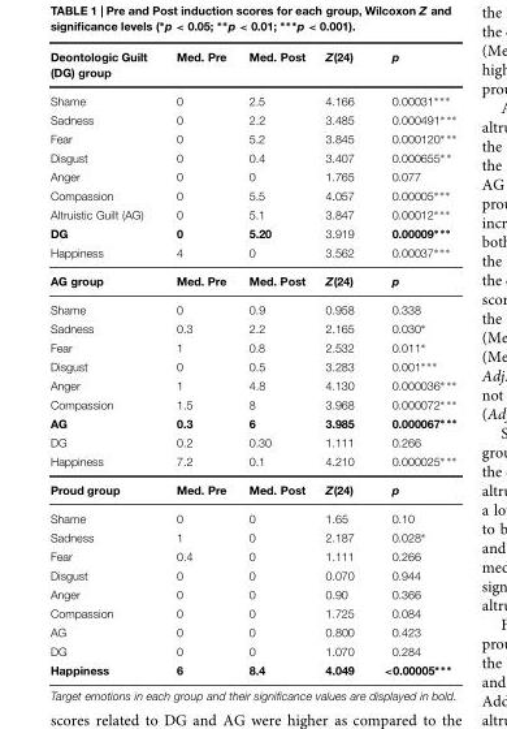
<table><thead><tr><td>Deontologic Guilt (DG) group</td><td>Med. Pre</td><td>Med. Post</td><td>Z(24)</td><td>p</td></tr></thead><tbody><tr><td>Shame</td><td>0</td><td>2.5</td><td>4.166</td><td>0.00031∗ ∗∗</td></tr><tr><td>Sadness</td><td>0</td><td>2.2</td><td>3.485</td><td>0.000491∗ ∗∗</td></tr><tr><td>Fear</td><td>0</td><td>5.2</td><td>3.845</td><td>0.000120∗ ∗∗</td></tr><tr><td>Disgust</td><td>0</td><td>0.4</td><td>3.407</td><td>0.000655∗ ∗</td></tr><tr><td>Anger</td><td>0</td><td>0</td><td>1.765</td><td>0.077</td></tr><tr><td>Compassion</td><td>0</td><td>5.5</td><td>4.057</td><td>0.00005∗ ∗∗</td></tr><tr><td>Altruistic Guilt (AG)</td><td>0</td><td>5.1</td><td>3.847</td><td>0.00012∗ ∗∗</td></tr><tr><td>DG</td><td>0</td><td>5.20</td><td>3.919</td><td>0.00009∗ ∗∗</td></tr><tr><td>Happiness</td><td>4</td><td>0</td><td>3.562</td><td>0.00037∗ ∗∗</td></tr><tr><td>AG group</td><td>Med. Pre</td><td>Med. Post</td><td>Z(24)</td><td>p</td></tr><tr><td>Shame</td><td>0</td><td>0.9</td><td>0.958</td><td>0.338</td></tr><tr><td>Sadness</td><td>0.3</td><td>2.2</td><td>2.165</td><td>0.030∗</td></tr><tr><td>Fear</td><td>1</td><td>0.8</td><td>2.532</td><td>0.011∗</td></tr><tr><td>Disgust</td><td>0</td><td>0.5</td><td>3.283</td><td>0.001∗∗∗</td></tr><tr><td>Anger</td><td>1</td><td>4.8</td><td>4.130</td><td>0.000036∗ ∗∗</td></tr><tr><td>Compassion</td><td>1.5</td><td>8</td><td>3.968</td><td>0.000072∗ ∗∗</td></tr><tr><td>AG</td><td>0.3</td><td>6</td><td>3.985</td><td>0.000067∗ ∗∗</td></tr><tr><td>DG</td><td>0.2</td><td>0.30</td><td>1.111</td><td>0.266</td></tr><tr><td>Happiness</td><td>7.2</td><td>0.1</td><td>4.210</td><td>0.000025∗ ∗∗</td></tr><tr><td>Proud group</td><td>Med. Pre</td><td>Med. Post</td><td>Z(24)</td><td>p</td></tr><tr><td>Shame</td><td>0</td><td>0</td><td>1.65</td><td>0.10</td></tr><tr><td>Sadness</td><td>1</td><td>0</td><td>2.187</td><td>0.028∗</td></tr><tr><td>Fear</td><td>0.4</td><td>0</td><td>1.111</td><td>0.266</td></tr><tr><td>Disgust</td><td>0</td><td>0</td><td>0.070</td><td>0.944</td></tr><tr><td>Anger</td><td>0</td><td>0</td><td>0.90</td><td>0.366</td></tr><tr><td>Compassion</td><td>0</td><td>0</td><td>1.725</td><td>0.084</td></tr><tr><td>AG</td><td>0</td><td>0</td><td>0.800</td><td>0.423</td></tr><tr><td>DG</td><td>0</td><td>0</td><td>1.070</td><td>0.284</td></tr><tr><td>Happiness</td><td>6</td><td>8.4</td><td>4.049</td><td>&lt;0.00005∗ ∗∗</td></tr></tbody></table>